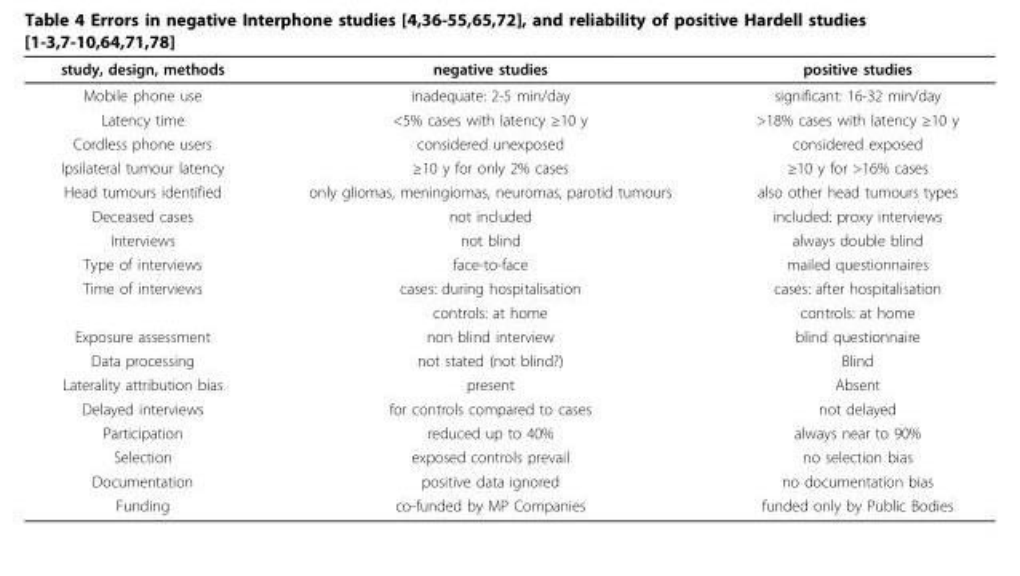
<table><thead><tr><td>study, design, methods</td><td>negative studies</td><td>positive studies</td></tr></thead><tbody><tr><td>Mobile phone use</td><td>inadequate: 2-5 min/day</td><td>significant: 16-32 min/day</td></tr><tr><td>Latency time</td><td>&lt;5% cases with latency ≥10 y</td><td>&gt;18% cases with latency ≥10 y</td></tr><tr><td>Cordless phone users</td><td>considered unexposed</td><td>considered exposed</td></tr><tr><td>Ipsilateral tumour latency</td><td>≥10 y for only 2% cases</td><td>≥10 y for &gt;16% cases</td></tr><tr><td>Head tumours identified</td><td>only gliomas, meningiomas, neuromas, parotid tumours</td><td>also other head tumours types</td></tr><tr><td>Deceased cases</td><td>not included</td><td>included: proxy interviews</td></tr><tr><td>Interviews</td><td>not blind</td><td>always double blind</td></tr><tr><td>Type of interviews</td><td>face-to-face</td><td>mailed questionnaires</td></tr><tr><td rowspan="2">Time of interviews</td><td>cases: during hospitalisation</td><td>cases: after hospitalisation</td></tr><tr><td>controls: at home</td><td>controls: at home</td></tr><tr><td>Exposure assessment</td><td>non blind interview</td><td>blind questionnaire</td></tr><tr><td>Data processing</td><td>not stated (not blind?)</td><td>Blind</td></tr><tr><td>Laterality attribution bias</td><td>present</td><td>Absent</td></tr><tr><td>Delayed interviews</td><td>for controls compared to cases</td><td>not delayed</td></tr><tr><td>Participation</td><td>reduced up to 40%</td><td>always near to 90%</td></tr><tr><td>Selection</td><td>exposed controls prevail</td><td>no selection bias</td></tr><tr><td>Documentation</td><td>positive data ignored</td><td>no documentation bias</td></tr><tr><td>Funding</td><td>co-funded by MP Companies</td><td>funded only by Public Bodies</td></tr></tbody></table>